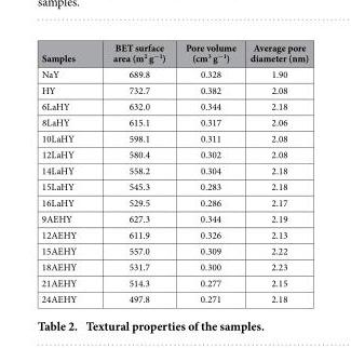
<table><thead><tr><td>Samples</td><td>BET surface area (m<sup>2</sup> g<sup>−1</sup>)</td><td>Pore volume (cm<sup>3</sup> g<sup>−1</sup>)</td><td>Average pore diameter (nm)</td></tr></thead><tbody><tr><td>NaY</td><td>689.8</td><td>0.328</td><td>1.90</td></tr><tr><td>HY</td><td>732.7</td><td>0.382</td><td>2.08</td></tr><tr><td>6LaHY</td><td>632.0</td><td>0.344</td><td>2.18</td></tr><tr><td>8LaHY</td><td>615.1</td><td>0.317</td><td>2.06</td></tr><tr><td>10LaHY</td><td>598.1</td><td>0.311</td><td>2.08</td></tr><tr><td>12LaHY</td><td>580.4</td><td>0.302</td><td>2.08</td></tr><tr><td>14LaHY</td><td>558.2</td><td>0.304</td><td>2.18</td></tr><tr><td>15LaHY</td><td>545.3</td><td>0.283</td><td>2.18</td></tr><tr><td>16LaHY</td><td>529.5</td><td>0.286</td><td>2.17</td></tr><tr><td>9AEHY</td><td>627.3</td><td>0.344</td><td>2.19</td></tr><tr><td>12AEHY</td><td>611.9</td><td>0.326</td><td>2.13</td></tr><tr><td>15AEHY</td><td>557.0</td><td>0.309</td><td>2.22</td></tr><tr><td>18AEHY</td><td>531.7</td><td>0.300</td><td>2.23</td></tr><tr><td>21AEHY</td><td>514.3</td><td>0.277</td><td>2.15</td></tr><tr><td>24AEHY</td><td>497.8</td><td>0.271</td><td>2.18</td></tr></tbody></table>